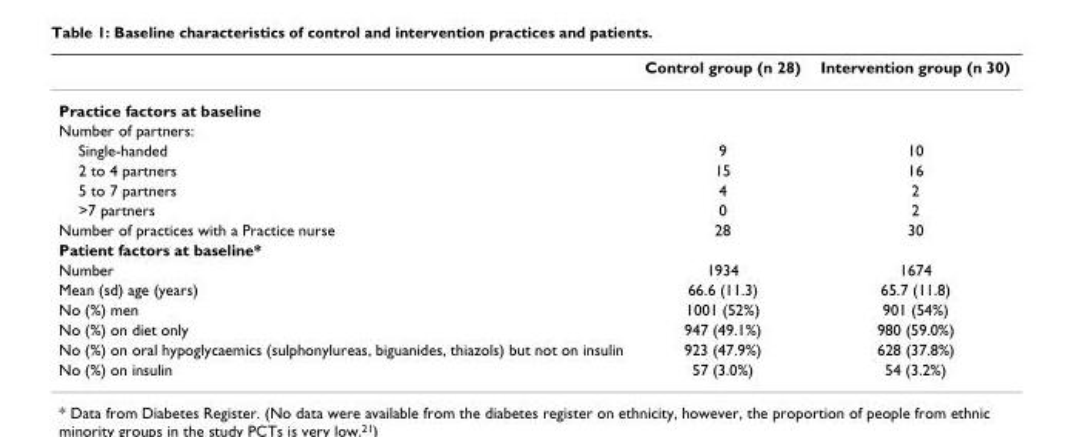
<table><thead><tr><td></td><td>Control group (n 28)</td><td>Intervention group (n 30)</td></tr></thead><tbody><tr><td colspan="3">Practice factors at baseline</td></tr><tr><td colspan="3">Number of partners:</td></tr><tr><td>Single-handed</td><td>9</td><td>10</td></tr><tr><td>2 to 4 partners</td><td>15</td><td>16</td></tr><tr><td>5 to 7 partners</td><td>4</td><td>2</td></tr><tr><td>&gt;7 partners</td><td>0</td><td>2</td></tr><tr><td>Number of practices with a Practice nurse</td><td>28</td><td>30</td></tr><tr><td colspan="3">Patient factors at baseline*</td></tr><tr><td>Number</td><td>1934</td><td>1674</td></tr><tr><td>Mean (sd) age (years)</td><td>66.6 (11.3)</td><td>65.7 (11.8)</td></tr><tr><td>No (%) men</td><td>1001 (52%)</td><td>901 (54%)</td></tr><tr><td>No (%) on diet only</td><td>947 (49.1%)</td><td>980 (59.0%)</td></tr><tr><td>No (%) on oral hypoglycaemics (sulphonylureas, biguanides, thiazols) but not on insulin</td><td>923 (47.9%)</td><td>628 (37.8%)</td></tr><tr><td>No (%) on insulin</td><td>57 (3.0%)</td><td>54 (3.2%)</td></tr></tbody></table>